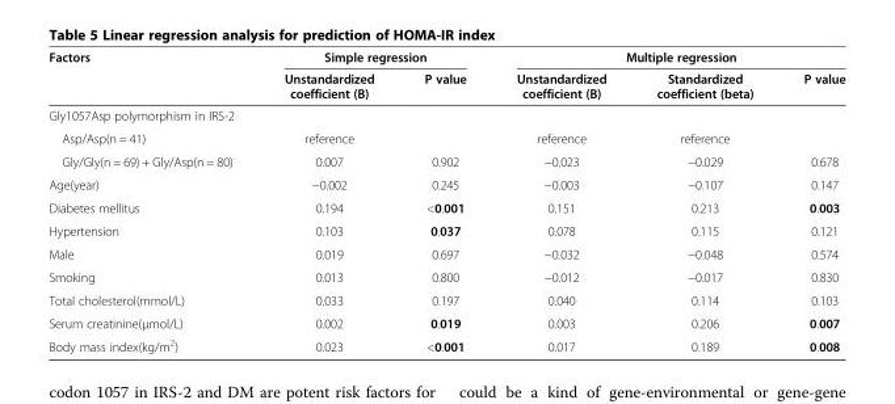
<table><thead><tr><td rowspan="2">Factors</td><td colspan="2">Simple regression</td><td colspan="3">Multiple regression</td></tr><tr><td>Unstandardized coefficient (B)</td><td>P value</td><td>Unstandardized coefficient (B)</td><td>Standardized coefficient (beta)</td><td>P value</td></tr></thead><tbody><tr><td colspan="6">Gly1057Asp polymorphism in IRS-2</td></tr><tr><td>Asp/Asp(n = 41)</td><td>reference</td><td></td><td>reference</td><td>reference</td><td></td></tr><tr><td>Gly/Gly(n = 69) + Gly/Asp(n = 80)</td><td>0.007</td><td>0.902</td><td>−0.023</td><td>−0.029</td><td>0.678</td></tr><tr><td>Age(year)</td><td>−0.002</td><td>0.245</td><td>−0.003</td><td>−0.107</td><td>0.147</td></tr><tr><td>Diabetes mellitus</td><td>0.194</td><td>&lt;0.001</td><td>0.151</td><td>0.213</td><td>0.003</td></tr><tr><td>Hypertension</td><td>0.103</td><td>0.037</td><td>0.078</td><td>0.115</td><td>0.121</td></tr><tr><td>Male</td><td>0.019</td><td>0.697</td><td>−0.032</td><td>−0.048</td><td>0.574</td></tr><tr><td>Smoking</td><td>0.013</td><td>0.800</td><td>−0.012</td><td>−0.017</td><td>0.830</td></tr><tr><td>Total cholesterol(mmol/L)</td><td>0.033</td><td>0.197</td><td>0.040</td><td>0.114</td><td>0.103</td></tr><tr><td>Serum creatinine(μmol/L)</td><td>0.002</td><td>0.019</td><td>0.003</td><td>0.206</td><td>0.007</td></tr><tr><td>Body mass index(kg/m<sup>2</sup>)</td><td>0.023</td><td>&lt;0.001</td><td>0.017</td><td>0.189</td><td>0.008</td></tr></tbody></table>